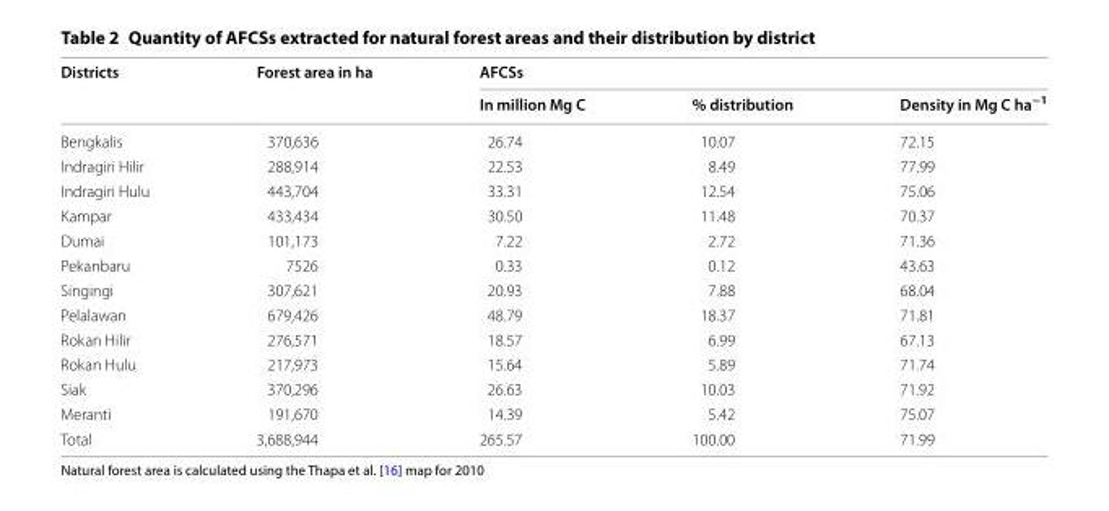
<table><thead><tr><td rowspan="2">Districts</td><td rowspan="2">Forest area in ha</td><td colspan="3">AFCSs</td></tr><tr><td>In million Mg C</td><td>% distribution</td><td>Density in Mg C ha<sup>−1</sup></td></tr></thead><tbody><tr><td>Bengkalis</td><td>370,636</td><td>26.74</td><td>10.07</td><td>72.15</td></tr><tr><td>Indragiri Hilir</td><td>288,914</td><td>22.53</td><td>8.49</td><td>77.99</td></tr><tr><td>Indragiri Hulu</td><td>443,704</td><td>33.31</td><td>12.54</td><td>75.06</td></tr><tr><td>Kampar</td><td>433,434</td><td>30.50</td><td>11.48</td><td>70.37</td></tr><tr><td>Dumai</td><td>101,173</td><td>7.22</td><td>2.72</td><td>71.36</td></tr><tr><td>Pekanbaru</td><td>7526</td><td>0.33</td><td>0.12</td><td>43.63</td></tr><tr><td>Singingi</td><td>307,621</td><td>20.93</td><td>7.88</td><td>68.04</td></tr><tr><td>Pelalawan</td><td>679,426</td><td>48.79</td><td>18.37</td><td>71.81</td></tr><tr><td>Rokan Hilir</td><td>276,571</td><td>18.57</td><td>6.99</td><td>67.13</td></tr><tr><td>Rokan Hulu</td><td>217,973</td><td>15.64</td><td>5.89</td><td>71.74</td></tr><tr><td>Siak</td><td>370,296</td><td>26.63</td><td>10.03</td><td>71.92</td></tr><tr><td>Meranti</td><td>191,670</td><td>14.39</td><td>5.42</td><td>75.07</td></tr><tr><td>Total</td><td>3,688,944</td><td>265.57</td><td>100.00</td><td>71.99</td></tr></tbody></table>